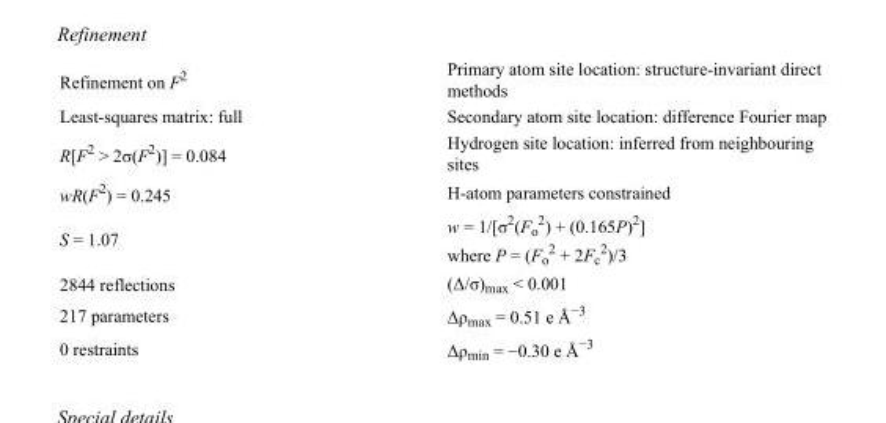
<table><tbody><tr><td>Refinement on F<sup>2</sup></td><td>Primary atom site location: structure-invariant direct methods</td></tr><tr><td>Least-squares matrix: full</td><td>Secondary atom site location: difference Fourier map</td></tr><tr><td>R[F<sup>2</sup> &gt; 2σ(F<sup>2</sup>)] = 0.084</td><td>Hydrogen site location: inferred from neighbouring sites</td></tr><tr><td>wR(F<sup>2</sup>) = 0.245</td><td>H-atom parameters constrained</td></tr><tr><td>S = 1.07</td><td>w = 1/[σ<sup>2</sup>(F<sub>o</sub> <sup>2</sup>) + (0.165P)<sup>2</sup>] where P = (F<sub>o</sub> <sup>2</sup> + 2F<sub>c</sub> <sup>2</sup>)/3</td></tr><tr><td>2844 reflections</td><td>(Δ/σ)<sub>max</sub> &lt; 0.001</td></tr><tr><td>217 parameters</td><td>Δρ<sub>max</sub> = 0.51 e Å<sup>−3</sup></td></tr><tr><td>0 restraints</td><td>Δρ<sub>min</sub> = −0.30 e Å<sup>−3</sup></td></tr></tbody></table>